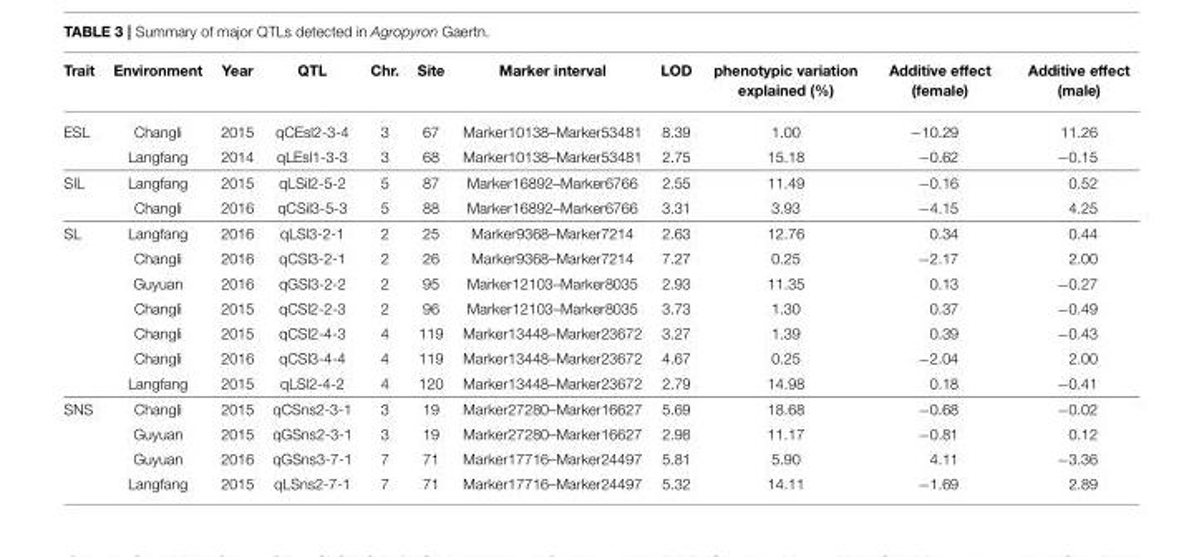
<table><thead><tr><td>Trait</td><td>Environment</td><td>Year</td><td>QTL</td><td>Chr.</td><td>Site</td><td>Marker interval</td><td>LOD</td><td>phenotypic variation explained (%)</td><td>Additive effect (female)</td><td>Additive effect (male)</td></tr></thead><tbody><tr><td rowspan="2">ESL</td><td>Changli</td><td>2015</td><td>qCEsl2-3-4</td><td>3</td><td>67</td><td>Marker10138–Marker53481</td><td>8.39</td><td>1.00</td><td>−10.29</td><td>11.26</td></tr><tr><td>Langfang</td><td>2014</td><td>qLEsl1-3-3</td><td>3</td><td>68</td><td>Marker10138–Marker53481</td><td>2.75</td><td>15.18</td><td>−0.62</td><td>−0.15</td></tr><tr><td rowspan="2">SIL</td><td>Langfang</td><td>2015</td><td>qLSil2-5-2</td><td>5</td><td>87</td><td>Marker16892–Marker6766</td><td>2.55</td><td>11.49</td><td>−0.16</td><td>0.52</td></tr><tr><td>Changli</td><td>2016</td><td>qCSil3-5-3</td><td>5</td><td>88</td><td>Marker16892–Marker6766</td><td>3.31</td><td>3.93</td><td>−4.15</td><td>4.25</td></tr><tr><td rowspan="7">SL</td><td>Langfang</td><td>2016</td><td>qLSl3-2-1</td><td>2</td><td>25</td><td>Marker9368–Marker7214</td><td>2.63</td><td>12.76</td><td>0.34</td><td>0.44</td></tr><tr><td>Changli</td><td>2016</td><td>qCSl3-2-1</td><td>2</td><td>26</td><td>Marker9368–Marker7214</td><td>7.27</td><td>0.25</td><td>−2.17</td><td>2.00</td></tr><tr><td>Guyuan</td><td>2016</td><td>qGSl3-2-2</td><td>2</td><td>95</td><td>Marker12103–Marker8035</td><td>2.93</td><td>11.35</td><td>0.13</td><td>−0.27</td></tr><tr><td>Changli</td><td>2015</td><td>qCSl2-2-3</td><td>2</td><td>96</td><td>Marker12103–Marker8035</td><td>3.73</td><td>1.30</td><td>0.37</td><td>−0.49</td></tr><tr><td>Changli</td><td>2015</td><td>qCSl2-4-3</td><td>4</td><td>119</td><td>Marker13448–Marker23672</td><td>3.27</td><td>1.39</td><td>0.39</td><td>−0.43</td></tr><tr><td>Changli</td><td>2016</td><td>qCSl3-4-4</td><td>4</td><td>119</td><td>Marker13448–Marker23672</td><td>4.67</td><td>0.25</td><td>−2.04</td><td>2.00</td></tr><tr><td>Langfang</td><td>2015</td><td>qLSl2-4-2</td><td>4</td><td>120</td><td>Marker13448–Marker23672</td><td>2.79</td><td>14.98</td><td>0.18</td><td>−0.41</td></tr><tr><td rowspan="4">SNS</td><td>Changli</td><td>2015</td><td>qCSns2-3-1</td><td>3</td><td>19</td><td>Marker27280–Marker16627</td><td>5.69</td><td>18.68</td><td>−0.68</td><td>−0.02</td></tr><tr><td>Guyuan</td><td>2015</td><td>qGSns2-3-1</td><td>3</td><td>19</td><td>Marker27280–Marker16627</td><td>2.98</td><td>11.17</td><td>−0.81</td><td>0.12</td></tr><tr><td>Guyuan</td><td>2016</td><td>qGSns3-7-1</td><td>7</td><td>71</td><td>Marker17716–Marker24497</td><td>5.81</td><td>5.90</td><td>4.11</td><td>−3.36</td></tr><tr><td>Langfang</td><td>2015</td><td>qLSns2-7-1</td><td>7</td><td>71</td><td>Marker17716–Marker24497</td><td>5.32</td><td>14.11</td><td>−1.69</td><td>2.89</td></tr></tbody></table>